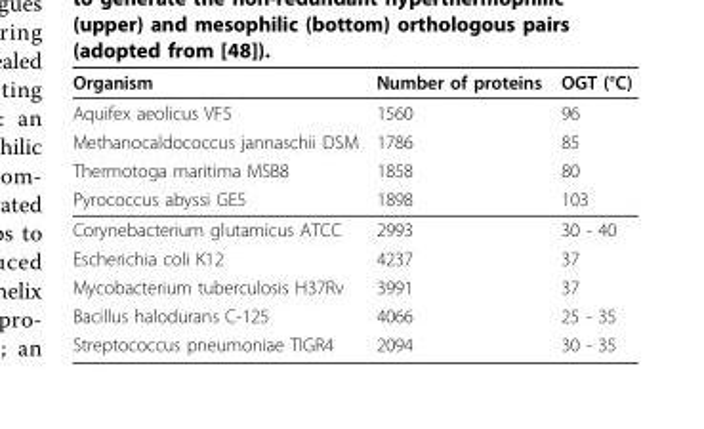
<table><thead><tr><td>Organism</td><td>Number of proteins</td><td>OGT (°C)</td></tr></thead><tbody><tr><td>Aquifex aeolicus VF5</td><td>1560</td><td>96</td></tr><tr><td>Methanocaldococcus jannaschii DSM</td><td>1786</td><td>85</td></tr><tr><td>Thermotoga maritima MSB8</td><td>1858</td><td>80</td></tr><tr><td>Pyrococcus abyssi GE5</td><td>1898</td><td>103</td></tr><tr><td>Corynebacterium glutamicus ATCC</td><td>2993</td><td>30 - 40</td></tr><tr><td>Escherichia coli K12</td><td>4237</td><td>37</td></tr><tr><td>Mycobacterium tuberculosis H37Rv</td><td>3991</td><td>37</td></tr><tr><td>Bacillus halodurans C-125</td><td>4066</td><td>25 - 35</td></tr><tr><td>Streptococcus pneumoniae TIGR4</td><td>2094</td><td>30 - 35</td></tr></tbody></table>